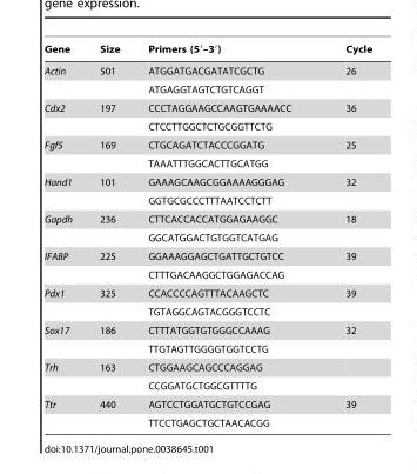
<table><thead><tr><td>Gene</td><td>Size</td><td>Primers (5′–3′)</td><td>Cycle</td></tr></thead><tbody><tr><td rowspan="2">Actin</td><td>501</td><td>ATGGATGACGATATCGCTG</td><td>26</td></tr><tr><td></td><td>ATGAGGTAGTCTGTCAGGT</td><td></td></tr><tr><td rowspan="2">Cdx2</td><td>197</td><td>CCCTAGGAAGCCAAGTGAAAACC</td><td>36</td></tr><tr><td></td><td>CTCCTTGGCTCTGCGGTTCTG</td><td></td></tr><tr><td rowspan="2">Fgf5</td><td>169</td><td>CTGCAGATCTACCCGGATG</td><td>25</td></tr><tr><td></td><td>TAAATTTGGCACTTGCATGG</td><td></td></tr><tr><td rowspan="2">Hand1</td><td>101</td><td>GAAAGCAAGCGGAAAAGGGAG</td><td>32</td></tr><tr><td></td><td>GGTGCGCCCTTTAATCCTCTT</td><td></td></tr><tr><td rowspan="2">Gapdh</td><td>236</td><td>CTTCACCACCATGGAGAAGGC</td><td>18</td></tr><tr><td></td><td>GGCATGGACTGTGGTCATGAG</td><td></td></tr><tr><td rowspan="2">IFABP</td><td>225</td><td>GGAAAGGAGCTGATTGCTGTCC</td><td>39</td></tr><tr><td></td><td>CTTTGACAAGGCTGGAGACCAG</td><td></td></tr><tr><td rowspan="2">Pdx1</td><td>325</td><td>CCACCCCAGTTTACAAGCTC</td><td>39</td></tr><tr><td></td><td>TGTAGGCAGTACGGGTCCTC</td><td></td></tr><tr><td rowspan="2">Sox17</td><td>186</td><td>CTTTATGGTGTGGGCCAAAG</td><td>32</td></tr><tr><td></td><td>TTGTAGTTGGGGTGGTCCTG</td><td></td></tr><tr><td rowspan="2">Trh</td><td>163</td><td>CTGGAAGCAGCCCAGGAG</td><td></td></tr><tr><td></td><td>CCGGATGCTGGCGTTTTG</td><td></td></tr><tr><td rowspan="2">Ttr</td><td>440</td><td>AGTCCTGGATGCTGTCCGAG</td><td>39</td></tr><tr><td></td><td>TTCCTGAGCTGCTAACACGG</td><td></td></tr></tbody></table>